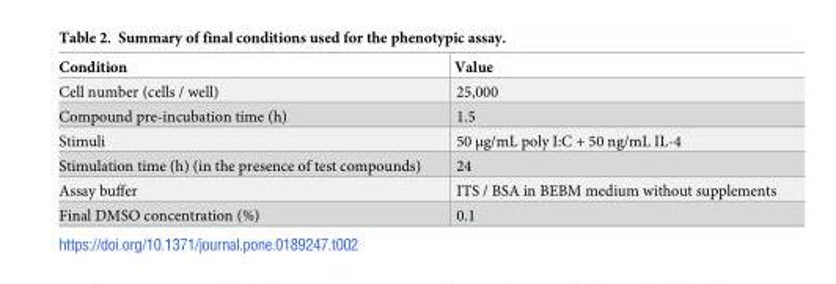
<table><thead><tr><td>Condition</td><td>Value</td></tr></thead><tbody><tr><td>Cell number (cells / well)</td><td>25,000</td></tr><tr><td>Compound pre-incubation time (h)</td><td>1.5</td></tr><tr><td>Stimuli</td><td>50 μg/mL poly I:C + 50 ng/mL IL-4</td></tr><tr><td>Stimulation time (h) (in the presence of test compounds)</td><td>24</td></tr><tr><td>Assay buffer</td><td>ITS / BSA in BEBM medium without supplements</td></tr><tr><td>Final DMSO concentration (%)</td><td>0.1</td></tr></tbody></table>